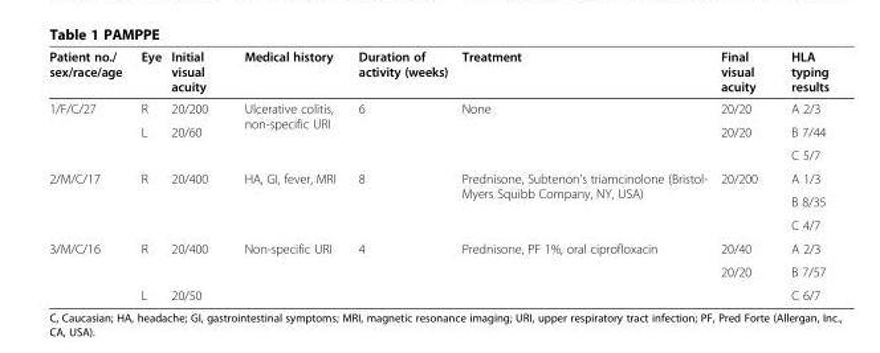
<table><thead><tr><td>Patient no./ sex/race/age</td><td>Eye</td><td>Initial visual acuity</td><td>Medical history</td><td>Duration of activity (weeks)</td><td>Treatment</td><td>Final visual acuity</td><td>HLA typing results</td></tr></thead><tbody><tr><td rowspan="3">1/F/C/27</td><td>R</td><td>20/200</td><td rowspan="3">Ulcerative colitis, non-specific URI</td><td rowspan="3">6</td><td rowspan="3">None</td><td>20/20</td><td>A 2/3</td></tr><tr><td rowspan="2">L</td><td rowspan="2">20/60</td><td rowspan="2">20/20</td><td>B 7/44</td></tr><tr><td>C 5/7</td></tr><tr><td rowspan="3">2/M/C/17</td><td rowspan="3">R</td><td rowspan="3">20/400</td><td rowspan="3">HA, GI, fever, MRI</td><td rowspan="3">8</td><td rowspan="3">Prednisone, Subtenon&#x27;s triamcinolone (Bristol- Myers Squibb Company, NY, USA)</td><td rowspan="3">20/200</td><td>A 1/3</td></tr><tr><td>B 8/35</td></tr><tr><td>C 4/7</td></tr><tr><td rowspan="3">3/M/C/16</td><td rowspan="2">R</td><td rowspan="2">20/400</td><td rowspan="2">Non-specific URI</td><td rowspan="2">4</td><td rowspan="2">Prednisone, PF 1%, oral ciprofloxacin</td><td>20/40</td><td>A 2/3</td></tr><tr><td>20/20</td><td>B 7/57</td></tr><tr><td>L</td><td>20/50</td><td></td><td></td><td></td><td></td><td>C 6/7</td></tr></tbody></table>